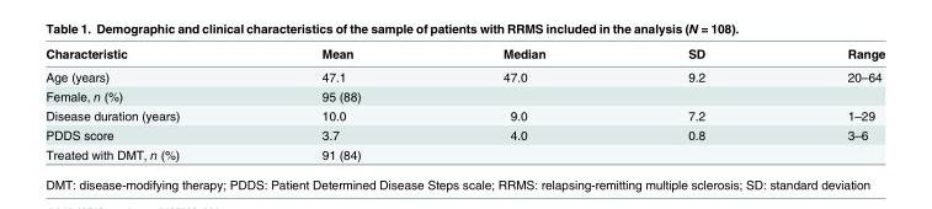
<table><thead><tr><td>Characteristic</td><td>Mean</td><td>Median</td><td>SD</td><td>Range</td></tr></thead><tbody><tr><td>Age (years)</td><td>47.1</td><td>47.0</td><td>9.2</td><td>20–64</td></tr><tr><td>Female, n (%)</td><td>95 (88)</td><td></td><td></td><td></td></tr><tr><td>Disease duration (years)</td><td>10.0</td><td>9.0</td><td>7.2</td><td>1–29</td></tr><tr><td>PDDS score</td><td>3.7</td><td>4.0</td><td>0.8</td><td>3–6</td></tr><tr><td>Treated with DMT, n (%)</td><td>91 (84)</td><td></td><td></td><td></td></tr></tbody></table>